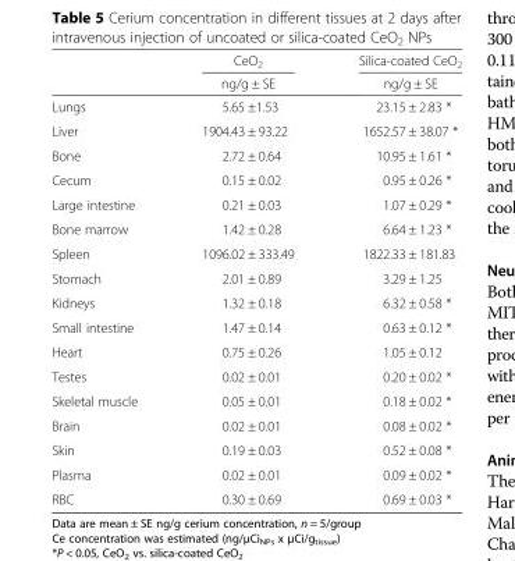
<table><thead><tr><td rowspan="2"></td><td rowspan="2">CeO<sub>2</sub> ng/g ± SE</td><td rowspan="2">Silica-coated CeO<sub>2</sub> ng/g ± SE</td></tr><tr></tr></thead><tbody><tr><td>Lungs</td><td>5.65 ±1.53</td><td>23.15 ± 2.83 *</td></tr><tr><td>Liver</td><td>1904.43 ± 93.22</td><td>1652.57 ± 38.07 *</td></tr><tr><td>Bone</td><td>2.72 ± 0.64</td><td>10.95 ± 1.61 *</td></tr><tr><td>Cecum</td><td>0.15 ± 0.02</td><td>0.95 ± 0.26 *</td></tr><tr><td>Large intestine</td><td>0.21 ± 0.03</td><td>1.07 ± 0.29 *</td></tr><tr><td>Bone marrow</td><td>1.42 ± 0.28</td><td>6.64 ± 1.23 *</td></tr><tr><td>Spleen</td><td>1096.02 ± 333.49</td><td>1822.33 ± 181.83</td></tr><tr><td>Stomach</td><td>2.01 ± 0.89</td><td>3.29 ± 1.25</td></tr><tr><td>Kidneys</td><td>1.32 ± 0.18</td><td>6.32 ± 0.58 *</td></tr><tr><td>Small intestine</td><td>1.47 ± 0.14</td><td>0.63 ± 0.12 *</td></tr><tr><td>Heart</td><td>0.75 ± 0.26</td><td>1.05 ± 0.12</td></tr><tr><td>Testes</td><td>0.02 ± 0.01</td><td>0.20 ± 0.02 *</td></tr><tr><td>Skeletal muscle</td><td>0.05 ± 0.01</td><td>0.18 ± 0.02 *</td></tr><tr><td>Brain</td><td>0.02 ± 0.01</td><td>0.08 ± 0.02 *</td></tr><tr><td>Skin</td><td>0.19 ± 0.03</td><td>0.52 ± 0.08 *</td></tr><tr><td>Plasma</td><td>0.02 ± 0.01</td><td>0.09 ± 0.02 *</td></tr><tr><td>RBC</td><td>0.30 ± 0.69</td><td>0.69 ± 0.03 *</td></tr></tbody></table>